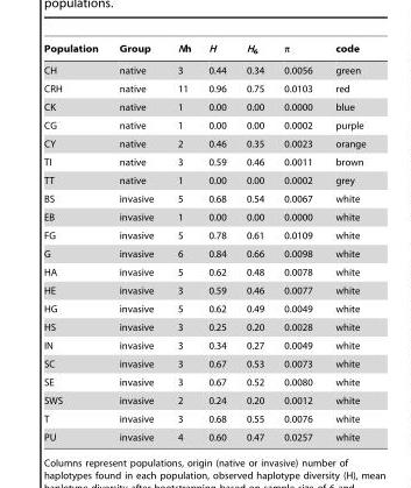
<table><thead><tr><td>Population</td><td>Group</td><td>Nh</td><td>H</td><td>H<sub>6</sub></td><td>π</td><td>code</td></tr></thead><tbody><tr><td>CH</td><td>native</td><td>3</td><td>0.44</td><td>0.34</td><td>0.0056</td><td>green</td></tr><tr><td>CRH</td><td>native</td><td>11</td><td>0.96</td><td>0.75</td><td>0.0103</td><td>red</td></tr><tr><td>CK</td><td>native</td><td>1</td><td>0.00</td><td>0.00</td><td>0.0000</td><td>blue</td></tr><tr><td>CG</td><td>native</td><td>1</td><td>0.00</td><td>0.00</td><td>0.0002</td><td>purple</td></tr><tr><td>CY</td><td>native</td><td>2</td><td>0.46</td><td>0.35</td><td>0.0023</td><td>orange</td></tr><tr><td>TI</td><td>native</td><td>3</td><td>0.59</td><td>0.46</td><td>0.0011</td><td>brown</td></tr><tr><td>TT</td><td>native</td><td>1</td><td>0.00</td><td>0.00</td><td>0.0002</td><td>grey</td></tr><tr><td>BS</td><td>invasive</td><td>5</td><td>0.68</td><td>0.54</td><td>0.0067</td><td>white</td></tr><tr><td>EB</td><td>invasive</td><td>1</td><td>0.00</td><td>0.00</td><td>0.0000</td><td>white</td></tr><tr><td>FG</td><td>invasive</td><td>5</td><td>0.78</td><td>0.61</td><td>0.0109</td><td>white</td></tr><tr><td>G</td><td>invasive</td><td>6</td><td>0.84</td><td>0.66</td><td>0.0098</td><td>white</td></tr><tr><td>HA</td><td>invasive</td><td>5</td><td>0.62</td><td>0.48</td><td>0.0078</td><td>white</td></tr><tr><td>HE</td><td>invasive</td><td>3</td><td>0.59</td><td>0.46</td><td>0.0077</td><td>white</td></tr><tr><td>HG</td><td>invasive</td><td>5</td><td>0.62</td><td>0.49</td><td>0.0049</td><td>white</td></tr><tr><td>HS</td><td>invasive</td><td>3</td><td>0.25</td><td>0.20</td><td>0.0028</td><td>white</td></tr><tr><td>IN</td><td>invasive</td><td>3</td><td>0.34</td><td>0.27</td><td>0.0049</td><td>white</td></tr><tr><td>SC</td><td>invasive</td><td>3</td><td>0.67</td><td>0.53</td><td>0.0073</td><td>white</td></tr><tr><td>SE</td><td>invasive</td><td>3</td><td>0.67</td><td>0.52</td><td>0.0080</td><td>white</td></tr><tr><td>SWS</td><td>invasive</td><td>2</td><td>0.24</td><td>0.20</td><td>0.0012</td><td>white</td></tr><tr><td>T</td><td>invasive</td><td>3</td><td>0.68</td><td>0.55</td><td>0.0076</td><td>white</td></tr><tr><td>PU</td><td>invasive</td><td>4</td><td>0.60</td><td>0.47</td><td>0.0257</td><td>white</td></tr></tbody></table>